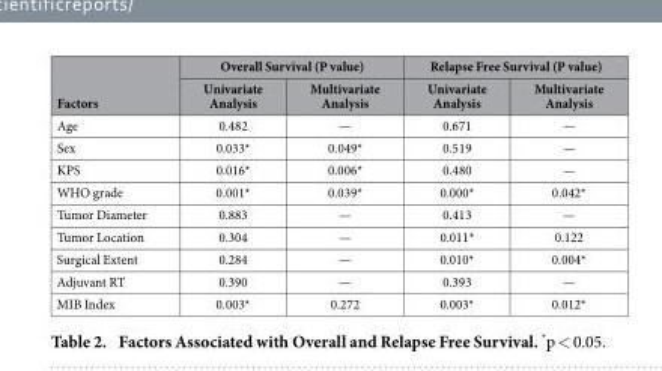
<table><thead><tr><td rowspan="2">Factors</td><td colspan="2">Overall Survival (P value)</td><td colspan="2">Relapse Free Survival (P value)</td></tr><tr><td>Univariate Analysis</td><td>Multivariate Analysis</td><td>Univariate Analysis</td><td>Multivariate Analysis</td></tr></thead><tbody><tr><td>Age</td><td>0.482</td><td>—</td><td>0.671</td><td>—</td></tr><tr><td>Sex</td><td>0.033*</td><td>0.049*</td><td>0.519</td><td>—</td></tr><tr><td>KPS</td><td>0.016*</td><td>0.006*</td><td>0.480</td><td>—</td></tr><tr><td>WHO grade</td><td>0.001*</td><td>0.039*</td><td>0.000*</td><td>0.042*</td></tr><tr><td>Tumor Diameter</td><td>0.883</td><td>—</td><td>0.413</td><td>—</td></tr><tr><td>Tumor Location</td><td>0.304</td><td>—</td><td>0.011*</td><td>0.122</td></tr><tr><td>Surgical Extent</td><td>0.284</td><td>—</td><td>0.010*</td><td>0.004*</td></tr><tr><td>Adjuvant RT</td><td>0.390</td><td>—</td><td>0.393</td><td>—</td></tr><tr><td>MIB Index</td><td>0.003*</td><td>0.272</td><td>0.003*</td><td>0.012*</td></tr></tbody></table>